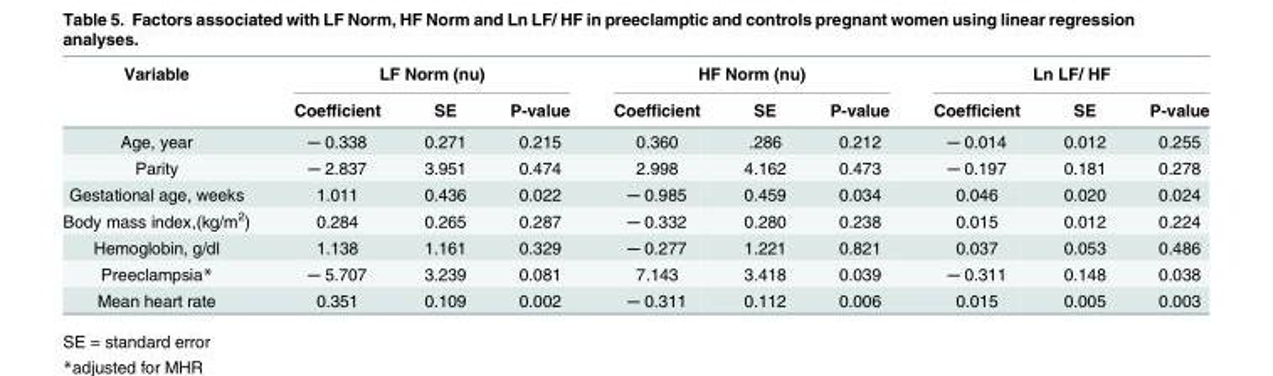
<table><thead><tr><td rowspan="2">Variable</td><td colspan="3">LF Norm (nu)</td><td colspan="3">HF Norm (nu)</td><td colspan="3">Ln LF/ HF</td></tr><tr><td>Coefficient</td><td>SE</td><td>P-value</td><td>Coefficient</td><td>SE</td><td>P-value</td><td>Coefficient</td><td>SE</td><td>P-value</td></tr></thead><tbody><tr><td>Age, year</td><td>─ 0.338</td><td>0.271</td><td>0.215</td><td>0.360</td><td>.286</td><td>0.212</td><td>─ 0.014</td><td>0.012</td><td>0.255</td></tr><tr><td>Parity</td><td>─ 2.837</td><td>3.951</td><td>0.474</td><td>2.998</td><td>4.162</td><td>0.473</td><td>─ 0.197</td><td>0.181</td><td>0.278</td></tr><tr><td>Gestational age, weeks</td><td>1.011</td><td>0.436</td><td>0.022</td><td>─ 0.985</td><td>0.459</td><td>0.034</td><td>0.046</td><td>0.020</td><td>0.024</td></tr><tr><td>Body mass index,(kg/m<sup>2</sup>)</td><td>0.284</td><td>0.265</td><td>0.287</td><td>─ 0.332</td><td>0.280</td><td>0.238</td><td>0.015</td><td>0.012</td><td>0.224</td></tr><tr><td>Hemoglobin, g/dl</td><td>1.138</td><td>1.161</td><td>0.329</td><td>─ 0.277</td><td>1.221</td><td>0.821</td><td>0.037</td><td>0.053</td><td>0.486</td></tr><tr><td>Preeclampsia*</td><td>─ 5.707</td><td>3.239</td><td>0.081</td><td>7.143</td><td>3.418</td><td>0.039</td><td>─ 0.311</td><td>0.148</td><td>0.038</td></tr><tr><td>Mean heart rate</td><td>0.351</td><td>0.109</td><td>0.002</td><td>─ 0.311</td><td>0.112</td><td>0.006</td><td>0.015</td><td>0.005</td><td>0.003</td></tr></tbody></table>